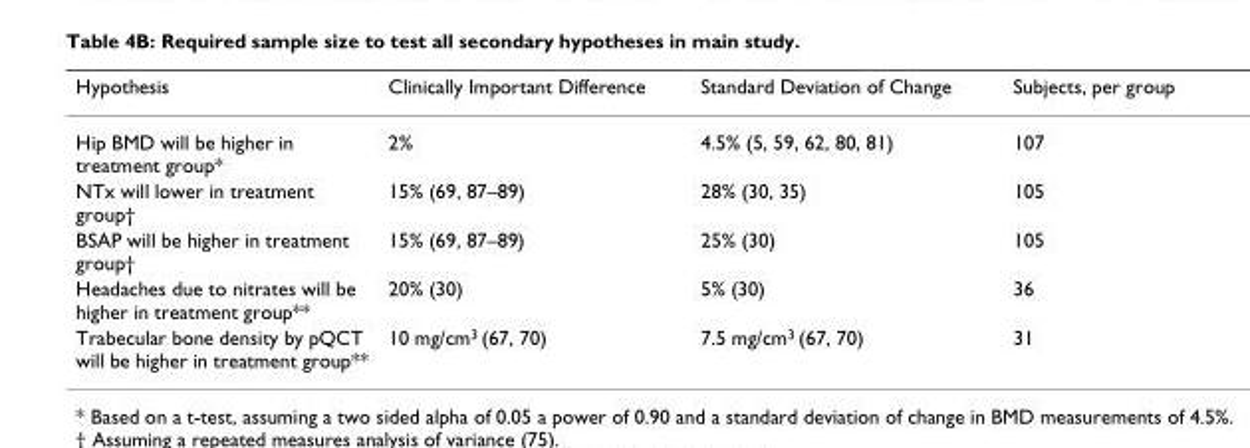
<table><thead><tr><td>Hypothesis</td><td>Clinically Important Difference</td><td>Standard Deviation of Change</td><td>Subjects, per group</td></tr></thead><tbody><tr><td>Hip BMD will be higher in treatment group*</td><td>2%</td><td>4.5% (5, 59, 62, 80, 81)</td><td>107</td></tr><tr><td>NTx will lower in treatment group†</td><td>15% (69, 87–89)</td><td>28% (30, 35)</td><td>105</td></tr><tr><td>BSAP will be higher in treatment group†</td><td>15% (69, 87–89)</td><td>25% (30)</td><td>105</td></tr><tr><td>Headaches due to nitrates will be higher in treatment group**</td><td>20% (30)</td><td>5% (30)</td><td>36</td></tr><tr><td>Trabecular bone density by pQCT will be higher in treatment group**</td><td>10 mg/cm<sup>3</sup> (67, 70)</td><td>7.5 mg/cm<sup>3</sup> (67, 70)</td><td>31</td></tr></tbody></table>